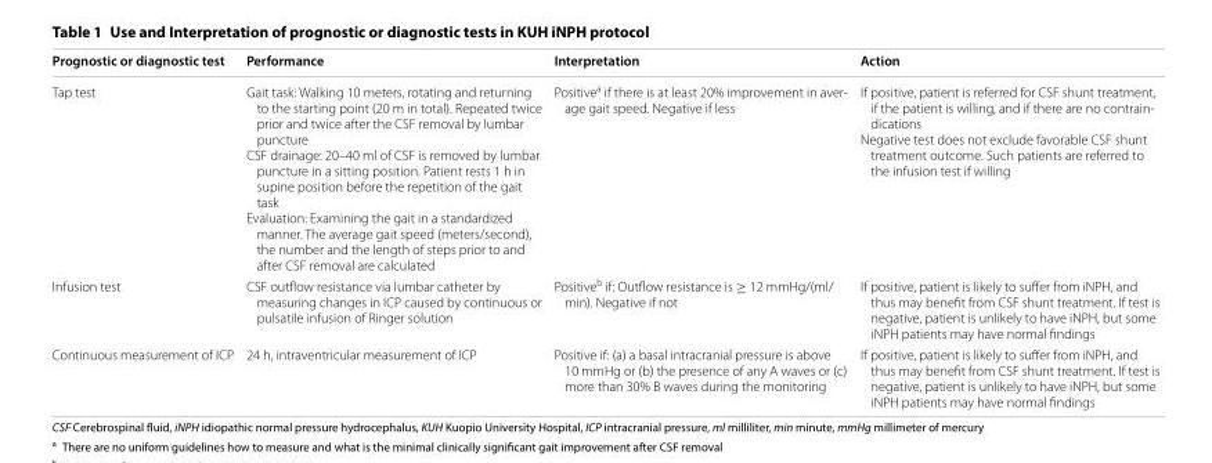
<table><thead><tr><td>Prognostic or diagnostic test</td><td>Performance</td><td>Interpretation</td><td>Action</td></tr></thead><tbody><tr><td>Tap test</td><td>Gait task: Walking 10 meters, rotating and returning to the starting point (20 m in total). Repeated twice prior and twice after the CSF removal by lumbar puncture CSF drainage: 20–40 ml of CSF is removed by lumbar puncture in a sitting position. Patient rests 1 h in supine position before the repetition of the gait task Evaluation: Examining the gait in a standardized manner. The average gait speed (meters/second), the number and the length of steps prior to and after CSF removal are calculated</td><td>Positivea if there is at least 20% improvement in aver- age gait speed. Negative if less</td><td>If positive, patient is referred for CSF shunt treatment, if the patient is willing, and if there are no contrain- dications Negative test does not exclude favorable CSF shunt treatment outcome. Such patients are referred to the infusion test if willing</td></tr><tr><td>Infusion test</td><td>CSF outflow resistance via lumbar catheter by measuring changes in ICP caused by continuous or pulsatile infusion of Ringer solution</td><td>Positive<sup>b</sup> if: Outflow resistance is ≥ 12 mmHg/(ml/ min). Negative if not</td><td>If positive, patient is likely to suffer from iNPH, and thus may benefit from CSF shunt treatment. If test is negative, patient is unlikely to have iNPH, but some iNPH patients may have normal findings</td></tr><tr><td>Continuous measurement of ICP</td><td>24 h, intraventricular measurement of ICP</td><td>Positive if: (a) a basal intracranial pressure is above 10 mmHg or (b) the presence of any A waves or (c) more than 30% B waves during the monitoring</td><td>If positive, patient is likely to suffer from iNPH, and thus may benefit from CSF shunt treatment. If test is negative, patient is unlikely to have iNPH, but some iNPH patients may have normal findings</td></tr></tbody></table>